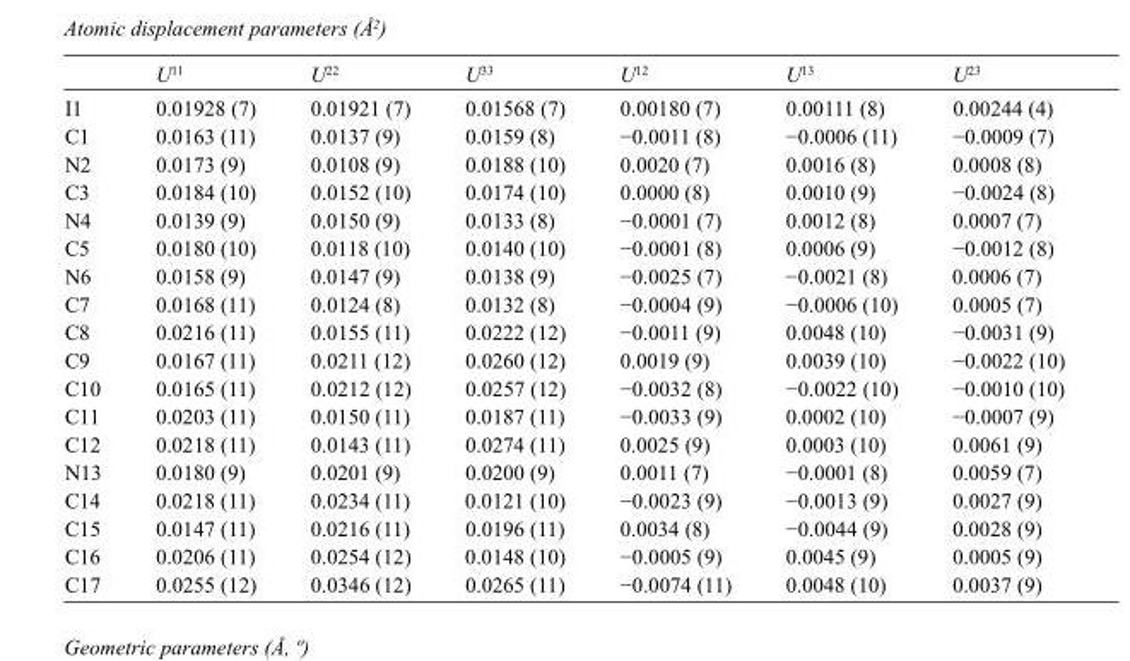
<table><thead><tr><td></td><td>U<sup>11</sup></td><td>U<sup>22</sup></td><td>U<sup>33</sup></td><td>U<sup>12</sup></td><td>U<sup>13</sup></td><td>U<sup>23</sup></td></tr></thead><tbody><tr><td>I1</td><td>0.01928 (7)</td><td>0.01921 (7)</td><td>0.01568 (7)</td><td>0.00180 (7)</td><td>0.00111 (8)</td><td>0.00244 (4)</td></tr><tr><td>C1</td><td>0.0163 (11)</td><td>0.0137 (9)</td><td>0.0159 (8)</td><td>−0.0011 (8)</td><td>−0.0006 (11)</td><td>−0.0009 (7)</td></tr><tr><td>N2</td><td>0.0173 (9)</td><td>0.0108 (9)</td><td>0.0188 (10)</td><td>0.0020 (7)</td><td>0.0016 (8)</td><td>0.0008 (8)</td></tr><tr><td>C3</td><td>0.0184 (10)</td><td>0.0152 (10)</td><td>0.0174 (10)</td><td>0.0000 (8)</td><td>0.0010 (9)</td><td>−0.0024 (8)</td></tr><tr><td>N4</td><td>0.0139 (9)</td><td>0.0150 (9)</td><td>0.0133 (8)</td><td>−0.0001 (7)</td><td>0.0012 (8)</td><td>0.0007 (7)</td></tr><tr><td>C5</td><td>0.0180 (10)</td><td>0.0118 (10)</td><td>0.0140 (10)</td><td>−0.0001 (8)</td><td>0.0006 (9)</td><td>−0.0012 (8)</td></tr><tr><td>N6</td><td>0.0158 (9)</td><td>0.0147 (9)</td><td>0.0138 (9)</td><td>−0.0025 (7)</td><td>−0.0021 (8)</td><td>0.0006 (7)</td></tr><tr><td>C7</td><td>0.0168 (11)</td><td>0.0124 (8)</td><td>0.0132 (8)</td><td>−0.0004 (9)</td><td>−0.0006 (10)</td><td>0.0005 (7)</td></tr><tr><td>C8</td><td>0.0216 (11)</td><td>0.0155 (11)</td><td>0.0222 (12)</td><td>−0.0011 (9)</td><td>0.0048 (10)</td><td>−0.0031 (9)</td></tr><tr><td>C9</td><td>0.0167 (11)</td><td>0.0211 (12)</td><td>0.0260 (12)</td><td>0.0019 (9)</td><td>0.0039 (10)</td><td>−0.0022 (10)</td></tr><tr><td>C10</td><td>0.0165 (11)</td><td>0.0212 (12)</td><td>0.0257 (12)</td><td>−0.0032 (8)</td><td>−0.0022 (10)</td><td>−0.0010 (10)</td></tr><tr><td>C11</td><td>0.0203 (11)</td><td>0.0150 (11)</td><td>0.0187 (11)</td><td>−0.0033 (9)</td><td>0.0002 (10)</td><td>−0.0007 (9)</td></tr><tr><td>C12</td><td>0.0218 (11)</td><td>0.0143 (11)</td><td>0.0274 (11)</td><td>0.0025 (9)</td><td>0.0003 (10)</td><td>0.0061 (9)</td></tr><tr><td>N13</td><td>0.0180 (9)</td><td>0.0201 (9)</td><td>0.0200 (9)</td><td>0.0011 (7)</td><td>−0.0001 (8)</td><td>0.0059 (7)</td></tr><tr><td>C14</td><td>0.0218 (11)</td><td>0.0234 (11)</td><td>0.0121 (10)</td><td>−0.0023 (9)</td><td>−0.0013 (9)</td><td>0.0027 (9)</td></tr><tr><td>C15</td><td>0.0147 (11)</td><td>0.0216 (11)</td><td>0.0196 (11)</td><td>0.0034 (8)</td><td>−0.0044 (9)</td><td>0.0028 (9)</td></tr><tr><td>C16</td><td>0.0206 (11)</td><td>0.0254 (12)</td><td>0.0148 (10)</td><td>−0.0005 (9)</td><td>0.0045 (9)</td><td>0.0005 (9)</td></tr><tr><td>C17</td><td>0.0255 (12)</td><td>0.0346 (12)</td><td>0.0265 (11)</td><td>−0.0074 (11)</td><td>0.0048 (10)</td><td>0.0037 (9)</td></tr></tbody></table>